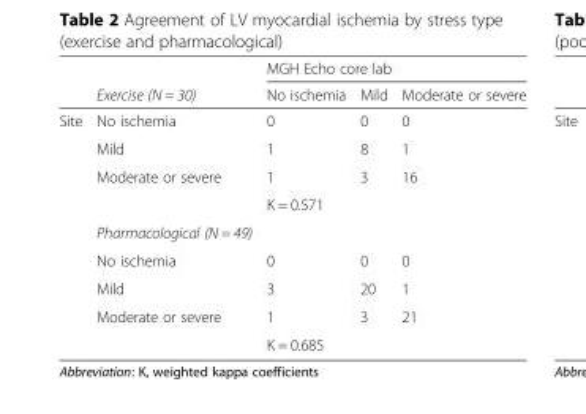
<table><thead><tr><td rowspan="2"></td><td rowspan="2">Exercise (N = 30)</td><td colspan="3">MGH Echo core lab</td></tr><tr><td>No ischemia</td><td>Mild</td><td>Moderate or severe</td></tr></thead><tbody><tr><td rowspan="9">Site</td><td>No ischemia</td><td>0</td><td>0</td><td>0</td></tr><tr><td>Mild</td><td>1</td><td>8</td><td>1</td></tr><tr><td>Moderate or severe</td><td>1</td><td>3</td><td>16</td></tr><tr><td></td><td colspan="3">K = 0.571</td></tr><tr><td>Pharmacological (N = 49)</td><td></td><td></td><td></td></tr><tr><td>No ischemia</td><td>0</td><td>0</td><td>0</td></tr><tr><td>Mild</td><td>3</td><td>20</td><td>1</td></tr><tr><td>Moderate or severe</td><td>1</td><td>3</td><td>21</td></tr><tr><td></td><td colspan="3">K = 0.685</td></tr></tbody></table>